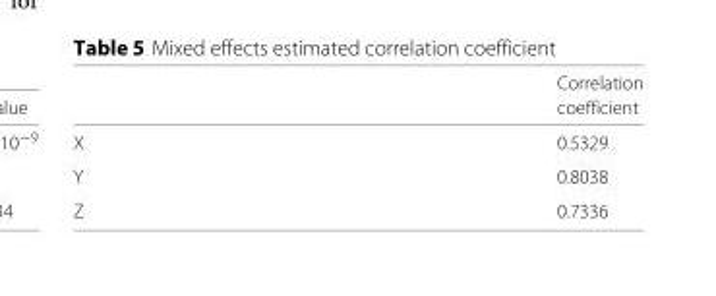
<table><thead><tr><td rowspan="2"></td><td rowspan="2">Correlation coefficient</td></tr><tr></tr></thead><tbody><tr><td>X</td><td>0.5329</td></tr><tr><td>Y</td><td>0.8038</td></tr><tr><td>Z</td><td>0.7336</td></tr></tbody></table>